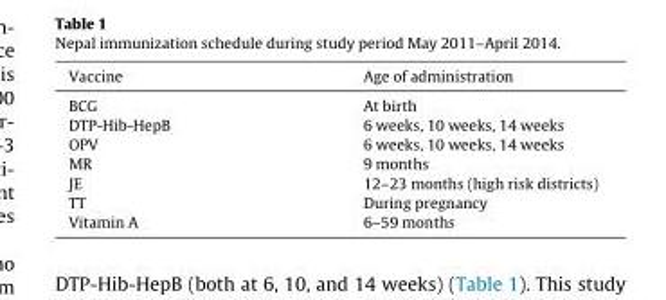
<table><thead><tr><td>Vaccine</td><td>Age of administration</td></tr></thead><tbody><tr><td>BCG</td><td>At birth</td></tr><tr><td>DTP-Hib-HepB</td><td>6 weeks, 10 weeks, 14 weeks</td></tr><tr><td>OPV</td><td>6 weeks, 10 weeks, 14 weeks</td></tr><tr><td>MR</td><td>9 months</td></tr><tr><td>JE</td><td>12–23 months (high risk districts)</td></tr><tr><td>TT</td><td>During pregnancy</td></tr><tr><td>Vitamin A</td><td>6–59 months</td></tr></tbody></table>